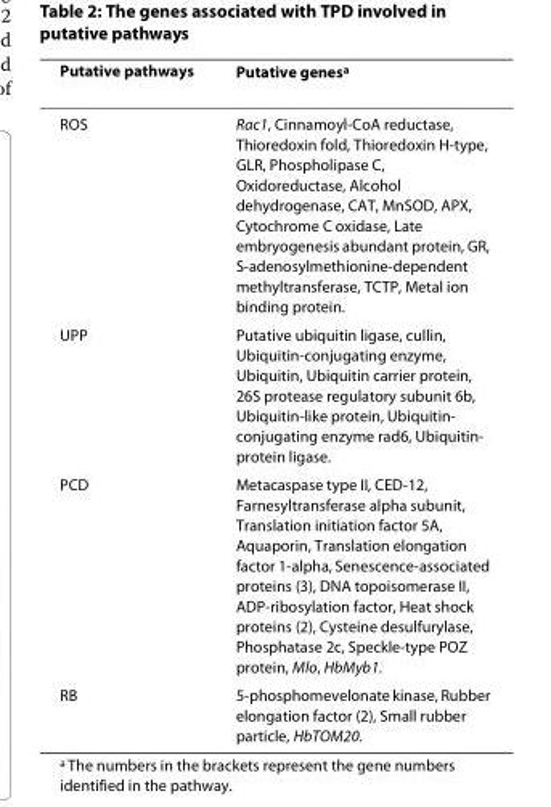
<table><thead><tr><td>Putative pathways</td><td>Putative genes<sup>a</sup></td></tr></thead><tbody><tr><td>ROS</td><td>Rac1, Cinnamoyl-CoA reductase, Thioredoxin fold, Thioredoxin H-type, GLR, Phospholipase C, Oxidoreductase, Alcohol dehydrogenase, CAT, MnSOD, APX, Cytochrome C oxidase, Late embryogenesis abundant protein, GR, S-adenosylmethionine-dependent methyltransferase, TCTP, Metal ion binding protein.</td></tr><tr><td>UPP</td><td>Putative ubiquitin ligase, cullin, Ubiquitin-conjugating enzyme, Ubiquitin, Ubiquitin carrier protein, 26S protease regulatory subunit 6b, Ubiquitin-like protein, Ubiquitin- conjugating enzyme rad6, Ubiquitin- protein ligase.</td></tr><tr><td>PCD</td><td>Metacaspase type II, CED-12, Farnesyltransferase alpha subunit, Translation initiation factor 5A, Aquaporin, Translation elongation factor 1-alpha, Senescence-associated proteins (3), DNA topoisomerase II, ADP-ribosylation factor, Heat shock proteins (2), Cysteine desulfurylase, Phosphatase 2c, Speckle-type POZ protein, Mlo, HbMyb1.</td></tr><tr><td>RB</td><td>5-phosphomevelonate kinase, Rubber elongation factor (2), Small rubber particle, HbTOM20.</td></tr></tbody></table>